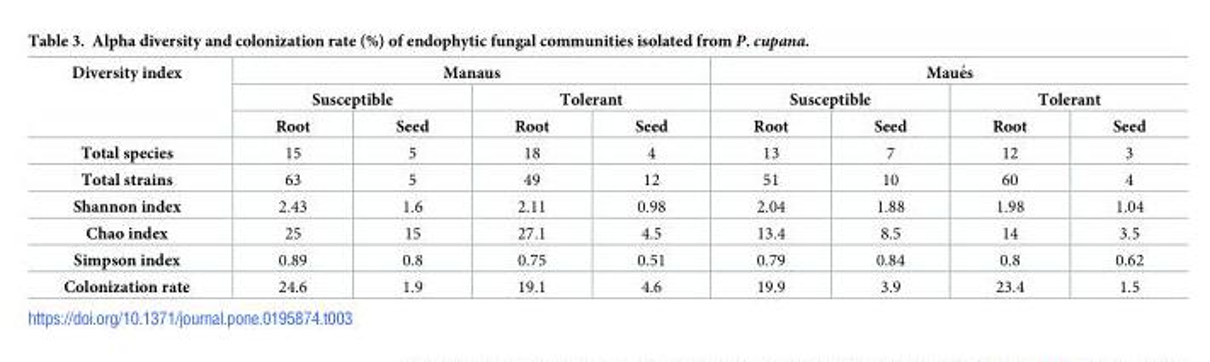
<table><thead><tr><td rowspan="3">Diversity index</td><td colspan="4">Manaus</td><td colspan="4">Maue´s</td></tr><tr><td colspan="2">Susceptible</td><td colspan="2">Tolerant</td><td colspan="2">Susceptible</td><td colspan="2">Tolerant</td></tr><tr><td>Root</td><td>Seed</td><td>Root</td><td>Seed</td><td>Root</td><td>Seed</td><td>Root</td><td>Seed</td></tr></thead><tbody><tr><td>Total species</td><td>15</td><td>5</td><td>18</td><td>4</td><td>13</td><td>7</td><td>12</td><td>3</td></tr><tr><td>Total strains</td><td>63</td><td>5</td><td>49</td><td>12</td><td>51</td><td>10</td><td>60</td><td>4</td></tr><tr><td>Shannon index</td><td>2.43</td><td>1.6</td><td>2.11</td><td>0.98</td><td>2.04</td><td>1.88</td><td>1.98</td><td>1.04</td></tr><tr><td>Chao index</td><td>25</td><td>15</td><td>27.1</td><td>4.5</td><td>13.4</td><td>8.5</td><td>14</td><td>3.5</td></tr><tr><td>Simpson index</td><td>0.89</td><td>0.8</td><td>0.75</td><td>0.51</td><td>0.79</td><td>0.84</td><td>0.8</td><td>0.62</td></tr><tr><td>Colonization rate</td><td>24.6</td><td>1.9</td><td>19.1</td><td>4.6</td><td>19.9</td><td>3.9</td><td>23.4</td><td>1.5</td></tr></tbody></table>